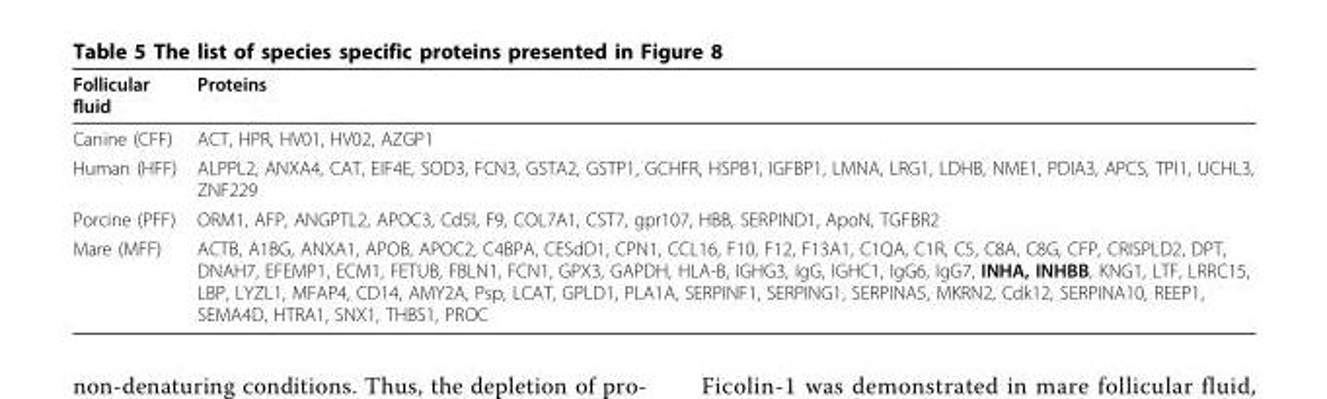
<table><thead><tr><td>Follicular fluid</td><td>Proteins</td></tr></thead><tbody><tr><td>Canine (CFF)</td><td>ACT, HPR, HV01, HV02, AZGP1</td></tr><tr><td>Human (HFF)</td><td>ALPPL2, ANXA4, CAT, EIF4E, SOD3, FCN3, GSTA2, GSTP1, GCHFR, HSPB1, IGFBP1, LMNA, LRG1, LDHB, NME1, PDIA3, APCS, TPI1, UCHL3, ZNF229</td></tr><tr><td>Porcine (PFF)</td><td>ORM1, AFP, ANGPTL2, APOC3, Cd5l, F9, COL7A1, CST7, gpr107, HBB, SERPIND1, ApoN, TGFBR2</td></tr><tr><td>Mare (MFF)</td><td>ACTB, A1BG, ANXA1, APOB, APOC2, C4BPA, CESdD1, CPN1, CCL16, F10, F12, F13A1, C1QA, C1R, C5, C8A, C8G, CFP, CRISPLD2, DPT, DNAH7, EFEMP1, ECM1, FETUB, FBLN1, FCN1, GPX3, GAPDH, HLA-B, IGHG3, IgG, IGHC1, IgG6, IgG7, INHA, INHBB, KNG1, LTF, LRRC15, LBP, LYZL1, MFAP4, CD14, AMY2A, Psp, LCAT, GPLD1, PLA1A, SERPINF1, SERPING1, SERPINA5, MKRN2, Cdk12, SERPINA10, REEP1, SEMA4D, HTRA1, SNX1, THBS1, PROC</td></tr></tbody></table>